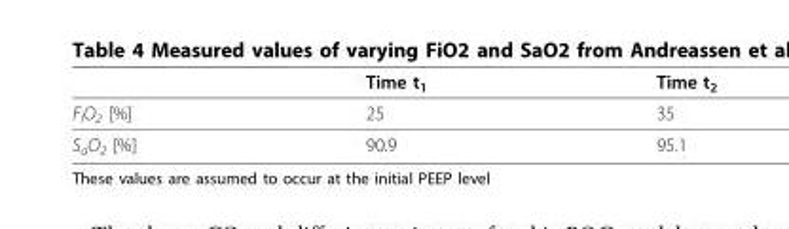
<table><thead><tr><td></td><td>Time t<sub>1</sub></td><td>Time t<sub>2</sub></td></tr></thead><tbody><tr><td>F<sub>I</sub>O<sub>2</sub> [%]</td><td>25</td><td>35</td></tr><tr><td>S<sub>a</sub>O<sub>2</sub> [%]</td><td>90.9</td><td>95.1</td></tr></tbody></table>